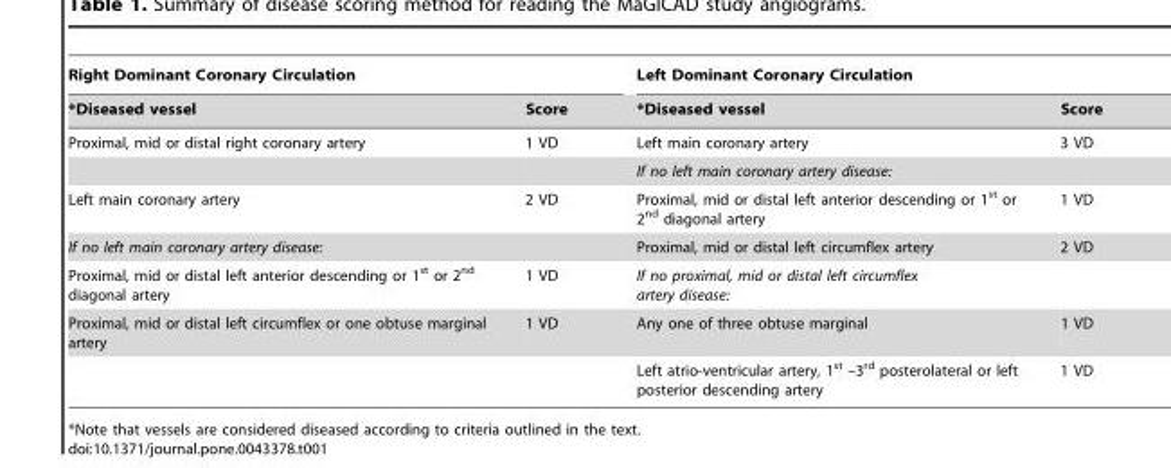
<table><thead><tr><td colspan="2">Right Dominant Coronary Circulation</td><td colspan="2">Left Dominant Coronary Circulation</td></tr><tr><td>*Diseased vessel</td><td>Score</td><td>*Diseased vessel</td><td>Score</td></tr></thead><tbody><tr><td rowspan="2">Proximal, mid or distal right coronary artery</td><td>1 VD</td><td>Left main coronary artery</td><td>3 VD</td></tr><tr><td></td><td colspan="2">If no left main coronary artery disease:</td></tr><tr><td>Left main coronary artery</td><td>2 VD</td><td>Proximal, mid or distal left anterior descending or 1<sup>st</sup> or 2<sup>nd</sup> diagonal artery</td><td>1 VD</td></tr><tr><td colspan="2">If no left main coronary artery disease:</td><td>Proximal, mid or distal left circumflex artery</td><td>2 VD</td></tr><tr><td>Proximal, mid or distal left anterior descending or 1<sup>st</sup> or 2<sup>nd</sup> diagonal artery</td><td>1 VD</td><td colspan="2">If no proximal, mid or distal left circumflex artery disease:</td></tr><tr><td rowspan="2">Proximal, mid or distal left circumflex or one obtuse marginal artery</td><td>1 VD</td><td>Any one of three obtuse marginal</td><td>1 VD</td></tr><tr><td></td><td>Left atrio-ventricular artery, 1<sup>st</sup> –3<sup>rd</sup> posterolateral or left posterior descending artery</td><td>1 VD</td></tr></tbody></table>